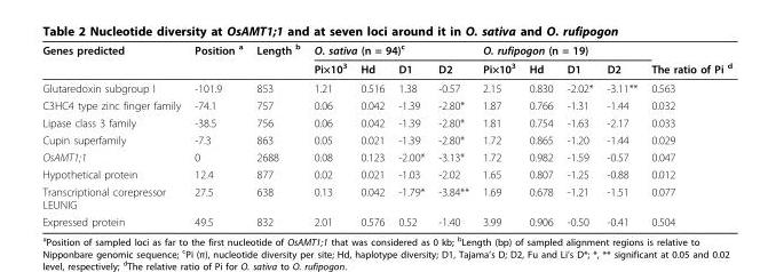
<table><thead><tr><td rowspan="2">Genes predicted</td><td rowspan="2">Position <sup>a</sup></td><td rowspan="2">Length <sup>b</sup></td><td colspan="4">O. sativa (n = 94)<sup>c</sup></td><td colspan="4">O. rufipogon (n = 19)</td><td rowspan="2">The ratio of Pi <sup>d</sup></td></tr><tr><td>Pi×10<sup>3</sup></td><td>Hd</td><td>D1</td><td>D2</td><td>Pi×10<sup>3</sup></td><td>Hd</td><td>D1</td><td>D2</td></tr></thead><tbody><tr><td>Glutaredoxin subgroup I</td><td>-101.9</td><td>853</td><td>1.21</td><td>0.516</td><td>1.38</td><td>-0.57</td><td>2.15</td><td>0.830</td><td>-2.02*</td><td>-3.11**</td><td>0.563</td></tr><tr><td>C3HC4 type zinc finger family</td><td>-74.1</td><td>757</td><td>0.06</td><td>0.042</td><td>-1.39</td><td>-2.80*</td><td>1.87</td><td>0.766</td><td>-1.31</td><td>-1.44</td><td>0.032</td></tr><tr><td>Lipase class 3 family</td><td>-38.5</td><td>756</td><td>0.06</td><td>0.042</td><td>-1.39</td><td>-2.80*</td><td>1.81</td><td>0.754</td><td>-1.63</td><td>-2.17</td><td>0.033</td></tr><tr><td>Cupin superfamily</td><td>-7.3</td><td>863</td><td>0.05</td><td>0.021</td><td>-1.39</td><td>-2.80*</td><td>1.72</td><td>0.865</td><td>-1.20</td><td>-1.44</td><td>0.029</td></tr><tr><td>OsAMT1;1</td><td>0</td><td>2688</td><td>0.08</td><td>0.123</td><td>-2.00*</td><td>-3.13*</td><td>1.72</td><td>0.982</td><td>-1.59</td><td>-0.57</td><td>0.047</td></tr><tr><td>Hypothetical protein</td><td>12.4</td><td>877</td><td>0.02</td><td>0.021</td><td>-1.03</td><td>-2.02</td><td>1.65</td><td>0.807</td><td>-1.25</td><td>-0.88</td><td>0.012</td></tr><tr><td>Transcriptional corepressor LEUNIG</td><td>27.5</td><td>638</td><td>0.13</td><td>0.042</td><td>-1.79*</td><td>-3.84**</td><td>1.69</td><td>0.678</td><td>-1.21</td><td>-1.51</td><td>0.077</td></tr><tr><td>Expressed protein</td><td>49.5</td><td>832</td><td>2.01</td><td>0.576</td><td>0.52</td><td>-1.40</td><td>3.99</td><td>0.906</td><td>-0.50</td><td>-0.41</td><td>0.504</td></tr></tbody></table>